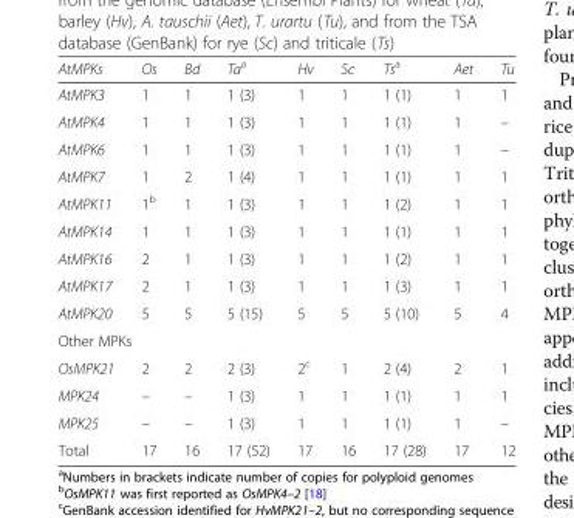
<table><thead><tr><td>AtMPKs</td><td>Os</td><td>Bd</td><td>Ta<sup>a</sup></td><td>Hv</td><td>Sc</td><td>Ts<sup>a</sup></td><td>Aet</td><td>Tu</td></tr></thead><tbody><tr><td>AtMPK3</td><td>1</td><td>1</td><td>1 (3)</td><td>1</td><td>1</td><td>1 (1)</td><td>1</td><td>1</td></tr><tr><td>AtMPK4</td><td>1</td><td>1</td><td>1 (3)</td><td>1</td><td>1</td><td>1 (1)</td><td>1</td><td>–</td></tr><tr><td>AtMPK6</td><td>1</td><td>1</td><td>1 (3)</td><td>1</td><td>1</td><td>1 (1)</td><td>1</td><td>–</td></tr><tr><td>AtMPK7</td><td>1</td><td>2</td><td>1 (4)</td><td>1</td><td>1</td><td>1 (1)</td><td>1</td><td>1</td></tr><tr><td>AtMPK11</td><td>1<sup>b</sup></td><td>1</td><td>1 (3)</td><td>1</td><td>1</td><td>1 (2)</td><td>1</td><td>1</td></tr><tr><td>AtMPK14</td><td>1</td><td>1</td><td>1 (3)</td><td>1</td><td>1</td><td>1 (1)</td><td>1</td><td>1</td></tr><tr><td>AtMPK16</td><td>2</td><td>1</td><td>1 (3)</td><td>1</td><td>1</td><td>1 (2)</td><td>1</td><td>1</td></tr><tr><td>AtMPK17</td><td>2</td><td>1</td><td>1 (3)</td><td>1</td><td>1</td><td>1 (3)</td><td>1</td><td>1</td></tr><tr><td>AtMPK20</td><td>5</td><td>5</td><td>5 (15)</td><td>5</td><td>5</td><td>5 (10)</td><td>5</td><td>4</td></tr><tr><td colspan="9">Other MPKs</td></tr><tr><td>OsMPK21</td><td>2</td><td>2</td><td>2 (3)</td><td>2<sup>c</sup></td><td>1</td><td>2 (4)</td><td>2</td><td>1</td></tr><tr><td>MPK24</td><td>–</td><td>–</td><td>1 (3)</td><td>1</td><td>1</td><td>1 (1)</td><td>1</td><td>1</td></tr><tr><td>MPK25</td><td>–</td><td>–</td><td>1 (3)</td><td>1</td><td>1</td><td>1 (1)</td><td>1</td><td>–</td></tr><tr><td>Total</td><td>17</td><td>16</td><td>17 (52)</td><td>17</td><td>16</td><td>17 (28)</td><td>17</td><td>12</td></tr></tbody></table>